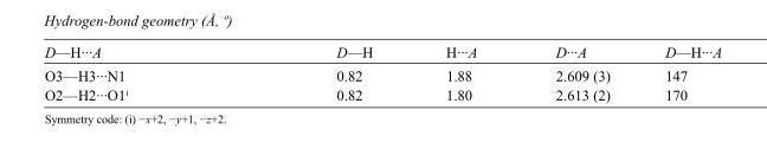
<table><tbody><tr><td>D—H···A</td><td>D—H</td><td>H···A</td><td>D···A</td><td>D—H···A</td></tr><tr><td>O3—H3···N1</td><td>0.82</td><td>1.88</td><td>2.609 (3)</td><td>147</td></tr><tr><td>O2—H2···O1<sup>i</sup></td><td>0.82</td><td>1.80</td><td>2.613 (2)</td><td>170</td></tr></tbody></table>